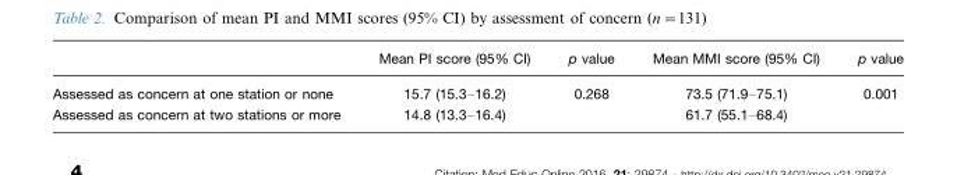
<table><thead><tr><td></td><td>Mean PI score (95% CI)</td><td>p value</td><td>Mean MMI score (95% CI)</td><td>p value</td></tr></thead><tbody><tr><td>Assessed as concern at one station or none</td><td>15.7 (15.3–16.2)</td><td>0.268</td><td>73.5 (71.9–75.1)</td><td>0.001</td></tr><tr><td>Assessed as concern at two stations or more</td><td>14.8 (13.3–16.4)</td><td></td><td>61.7 (55.1–68.4)</td><td></td></tr></tbody></table>